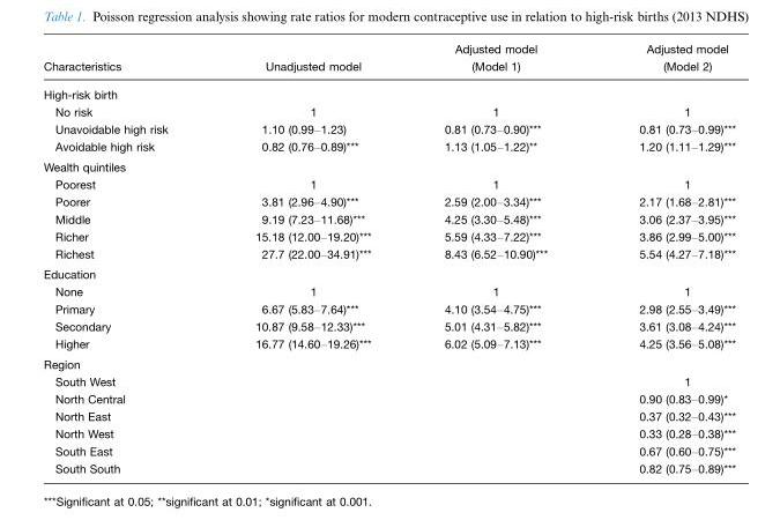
<table><thead><tr><td>Characteristics</td><td>Unadjusted model</td><td>Adjusted model (Model 1)</td><td>Adjusted model (Model 2)</td></tr></thead><tbody><tr><td colspan="4">High-risk birth</td></tr><tr><td>No risk</td><td>1</td><td>1</td><td>1</td></tr><tr><td>Unavoidable high risk</td><td>1.10 (0.99–1.23)</td><td>0.81 (0.73–0.90)***</td><td>0.81 (0.73–0.99)***</td></tr><tr><td>Avoidable high risk</td><td>0.82 (0.76–0.89)***</td><td>1.13 (1.05–1.22)**</td><td>1.20 (1.11–1.29)***</td></tr><tr><td colspan="4">Wealth quintiles</td></tr><tr><td>Poorest</td><td>1</td><td>1</td><td>1</td></tr><tr><td>Poorer</td><td>3.81 (2.96–4.90)***</td><td>2.59 (2.00–3.34)***</td><td>2.17 (1.68–2.81)***</td></tr><tr><td>Middle</td><td>9.19 (7.23–11.68)***</td><td>4.25 (3.30–5.48)***</td><td>3.06 (2.37–3.95)***</td></tr><tr><td>Richer</td><td>15.18 (12.00–19.20)***</td><td>5.59 (4.33–7.22)***</td><td>3.86 (2.99–5.00)***</td></tr><tr><td>Richest</td><td>27.7 (22.00–34.91)***</td><td>8.43 (6.52–10.90)***</td><td>5.54 (4.27–7.18)***</td></tr><tr><td colspan="4">Education</td></tr><tr><td>None</td><td>1</td><td>1</td><td>1</td></tr><tr><td>Primary</td><td>6.67 (5.83–7.64)***</td><td>4.10 (3.54–4.75)***</td><td>2.98 (2.55–3.49)***</td></tr><tr><td>Secondary</td><td>10.87 (9.58–12.33)***</td><td>5.01 (4.31–5.82)***</td><td>3.61 (3.08–4.24)***</td></tr><tr><td>Higher</td><td>16.77 (14.60–19.26)***</td><td>6.02 (5.09–7.13)***</td><td>4.25 (3.56–5.08)***</td></tr><tr><td colspan="4">Region</td></tr><tr><td>South West</td><td></td><td></td><td>1</td></tr><tr><td>North Central</td><td></td><td></td><td>0.90 (0.83–0.99)*</td></tr><tr><td>North East</td><td></td><td></td><td>0.37 (0.32–0.43)***</td></tr><tr><td>North West</td><td></td><td></td><td>0.33 (0.28–0.38)***</td></tr><tr><td>South East</td><td></td><td></td><td>0.67 (0.60–0.75)***</td></tr><tr><td>South South</td><td></td><td></td><td>0.82 (0.75–0.89)***</td></tr></tbody></table>